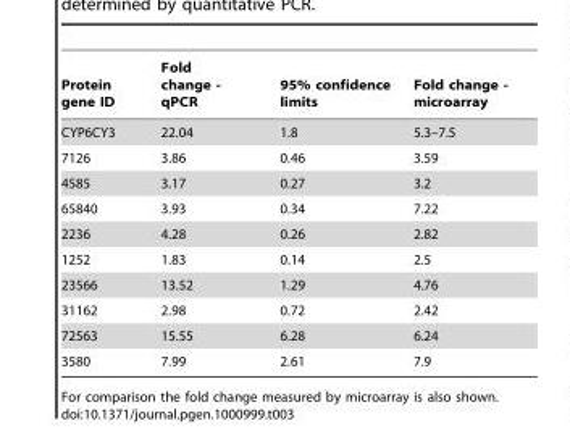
<table><thead><tr><td>Protein gene ID</td><td>Fold change - qPCR</td><td>95% confidence limits</td><td>Fold change - microarray</td></tr></thead><tbody><tr><td>CYP6CY3</td><td>22.04</td><td>1.8</td><td>5.3–7.5</td></tr><tr><td>7126</td><td>3.86</td><td>0.46</td><td>3.59</td></tr><tr><td>4585</td><td>3.17</td><td>0.27</td><td>3.2</td></tr><tr><td>65840</td><td>3.93</td><td>0.34</td><td>7.22</td></tr><tr><td>2236</td><td>4.28</td><td>0.26</td><td>2.82</td></tr><tr><td>1252</td><td>1.83</td><td>0.14</td><td>2.5</td></tr><tr><td>23566</td><td>13.52</td><td>1.29</td><td>4.76</td></tr><tr><td>31162</td><td>2.98</td><td>0.72</td><td>2.42</td></tr><tr><td>72563</td><td>15.55</td><td>6.28</td><td>6.24</td></tr><tr><td>3580</td><td>7.99</td><td>2.61</td><td>7.9</td></tr></tbody></table>